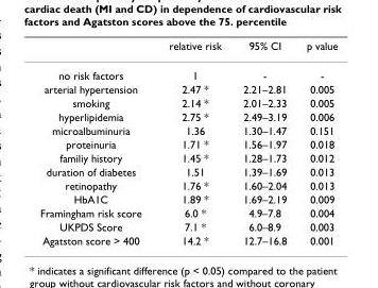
<table><thead><tr><td></td><td>relative risk</td><td>95% CI</td><td>p value</td></tr></thead><tbody><tr><td>no risk factors</td><td>1</td><td>-</td><td>-</td></tr><tr><td>arterial hypertension</td><td>2.47 *</td><td>2.21–2.81</td><td>0.005</td></tr><tr><td>smoking</td><td>2.14 *</td><td>2.01–2.33</td><td>0.005</td></tr><tr><td>hyperlipidemia</td><td>2.75 *</td><td>2.49–3.19</td><td>0.006</td></tr><tr><td>microalbuminuria</td><td>1.36</td><td>1.30–1.47</td><td>0.151</td></tr><tr><td>proteinuria</td><td>1.71 *</td><td>1.56–1.97</td><td>0.018</td></tr><tr><td>familiy history</td><td>1.45 *</td><td>1.28–1.73</td><td>0.012</td></tr><tr><td>duration of diabetes</td><td>1.51</td><td>1.39–1.69</td><td>0.013</td></tr><tr><td>retinopathy</td><td>1.76 *</td><td>1.60–2.04</td><td>0.013</td></tr><tr><td>HbA1C</td><td>1.89 *</td><td>1.69–2.19</td><td>0.009</td></tr><tr><td>Framingham risk score</td><td>6.0 *</td><td>4.9–7.8</td><td>0.004</td></tr><tr><td>UKPDS Score</td><td>7.1 *</td><td>6.0–8.9</td><td>0.003</td></tr><tr><td>Agatston score &gt; 400</td><td>14.2 *</td><td>12.7–16.8</td><td>0.001</td></tr></tbody></table>